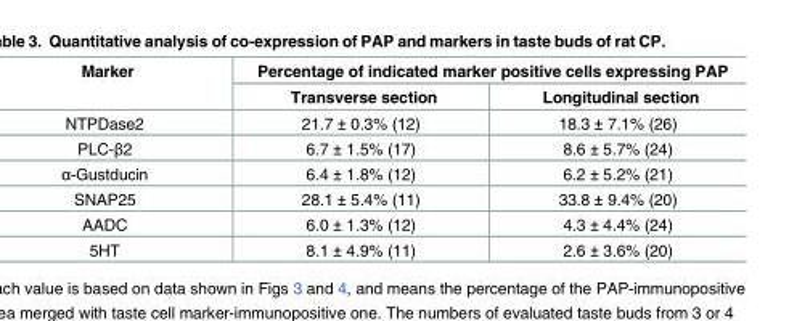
<table><thead><tr><td rowspan="2">Marker</td><td colspan="2">Percentage of indicated marker positive cells expressing PAP</td></tr><tr><td>Transverse section</td><td>Longitudinal section</td></tr></thead><tbody><tr><td>NTPDase2</td><td>21.7 ± 0.3% (12)</td><td>18.3 ± 7.1% (26)</td></tr><tr><td>PLC-β2</td><td>6.7 ± 1.5% (17)</td><td>8.6 ± 5.7% (24)</td></tr><tr><td>α-Gustducin</td><td>6.4 ± 1.8% (12)</td><td>6.2 ± 5.2% (21)</td></tr><tr><td>SNAP25</td><td>28.1 ± 5.4% (11)</td><td>33.8 ± 9.4% (20)</td></tr><tr><td>AADC</td><td>6.0 ± 1.3% (12)</td><td>4.3 ± 4.4% (24)</td></tr><tr><td>5HT</td><td>8.1 ± 4.9% (11)</td><td>2.6 ± 3.6% (20)</td></tr></tbody></table>